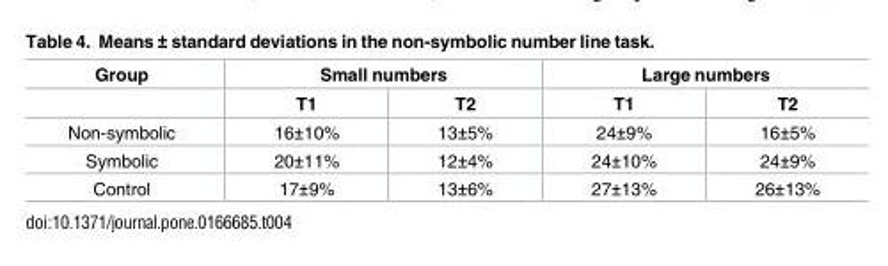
<table><thead><tr><td rowspan="2">Group</td><td colspan="2">Small numbers</td><td colspan="2">Large numbers</td></tr><tr><td>T1</td><td>T2</td><td>T1</td><td>T2</td></tr></thead><tbody><tr><td>Non-symbolic</td><td>16±10%</td><td>13±5%</td><td>24±9%</td><td>16±5%</td></tr><tr><td>Symbolic</td><td>20±11%</td><td>12±4%</td><td>24±10%</td><td>24±9%</td></tr><tr><td>Control</td><td>17±9%</td><td>13±6%</td><td>27±13%</td><td>26±13%</td></tr></tbody></table>